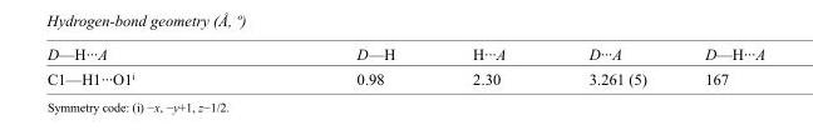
<table><tbody><tr><td>D—H···A</td><td>D—H</td><td>H···A</td><td>D···A</td><td>D—H···A</td></tr><tr><td>C1—H1···O1<sup>i</sup></td><td>0.98</td><td>2.30</td><td>3.261 (5)</td><td>167</td></tr></tbody></table>